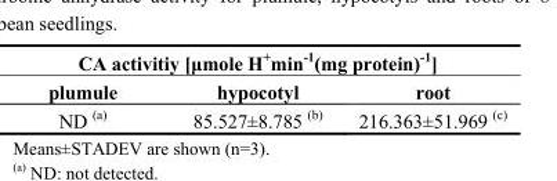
<table><thead><tr><td colspan="3">CA activitiy [μmole H<sup>+</sup>min<sup>-1</sup>(mg protein)<sup>-1</sup>]</td></tr><tr><td>plumule</td><td>hypocotyl</td><td>root</td></tr></thead><tbody><tr><td>ND (a)</td><td>85.527±8.785 (b)</td><td>216.363±51.969 (c)</td></tr></tbody></table>